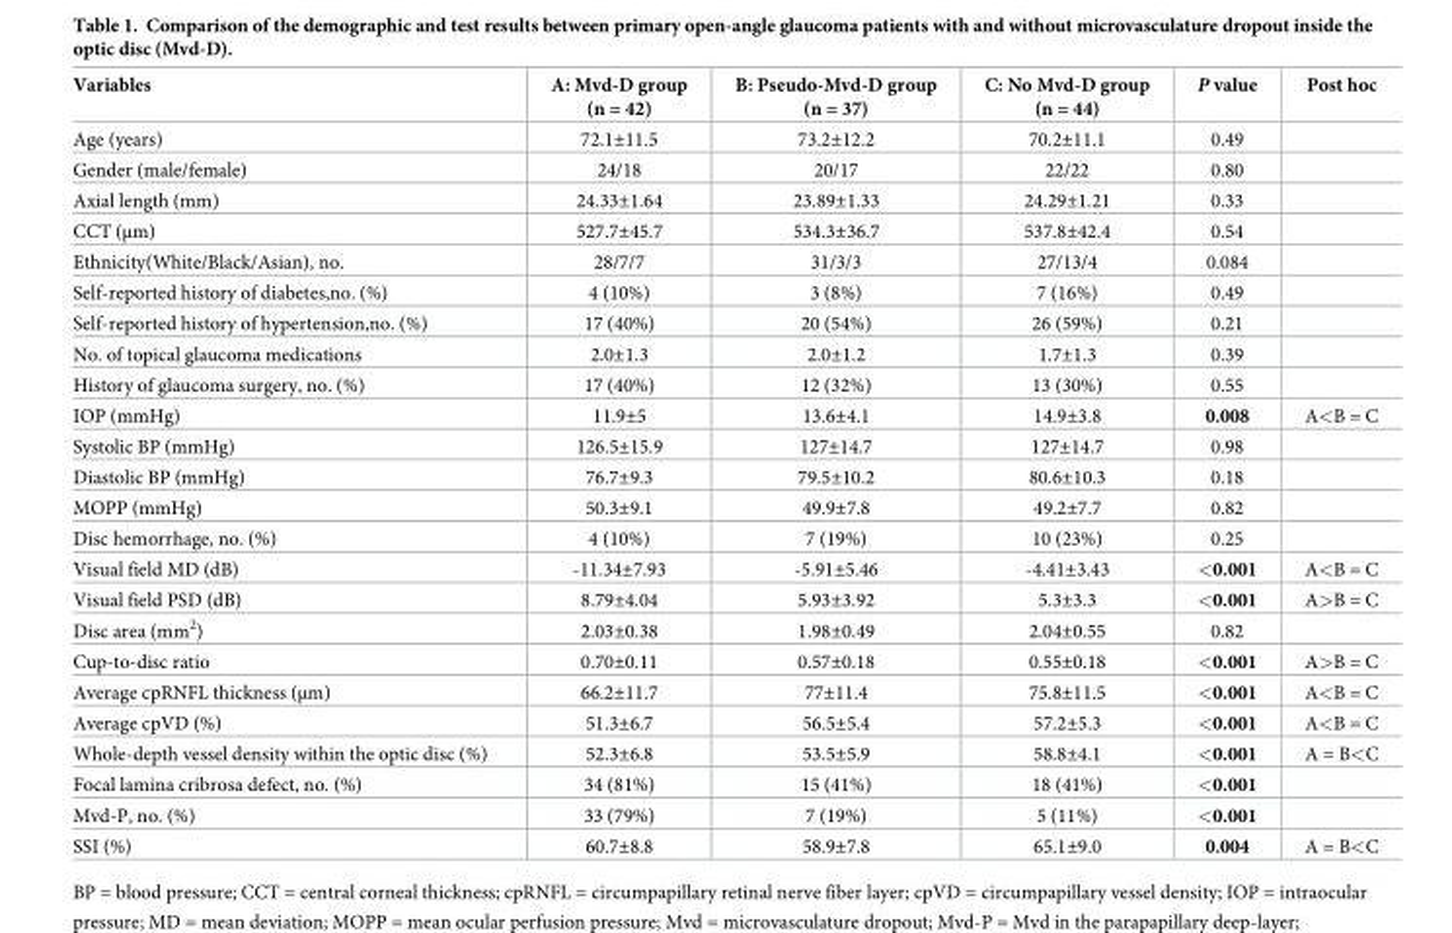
<table><thead><tr><td>Variables</td><td>A: Mvd-D group (n = 42)</td><td>B: Pseudo-Mvd-D group (n = 37)</td><td>C: No Mvd-D group (n = 44)</td><td>P value</td><td>Post hoc</td></tr></thead><tbody><tr><td>Age (years)</td><td>72.1±11.5</td><td>73.2±12.2</td><td>70.2±11.1</td><td>0.49</td><td></td></tr><tr><td>Gender (male/female)</td><td>24/18</td><td>20/17</td><td>22/22</td><td>0.80</td><td></td></tr><tr><td>Axial length (mm)</td><td>24.33±1.64</td><td>23.89±1.33</td><td>24.29±1.21</td><td>0.33</td><td></td></tr><tr><td>CCT (μm)</td><td>527.7±45.7</td><td>534.3±36.7</td><td>537.8±42.4</td><td>0.54</td><td></td></tr><tr><td>Ethnicity(White/Black/Asian), no.</td><td>28/7/7</td><td>31/3/3</td><td>27/13/4</td><td>0.084</td><td></td></tr><tr><td>Self-reported history of diabetes,no. (%)</td><td>4 (10%)</td><td>3 (8%)</td><td>7 (16%)</td><td>0.49</td><td></td></tr><tr><td>Self-reported history of hypertension,no. (%)</td><td>17 (40%)</td><td>20 (54%)</td><td>26 (59%)</td><td>0.21</td><td></td></tr><tr><td>No. of topical glaucoma medications</td><td>2.0±1.3</td><td>2.0±1.2</td><td>1.7±1.3</td><td>0.39</td><td></td></tr><tr><td>History of glaucoma surgery, no. (%)</td><td>17 (40%)</td><td>12 (32%)</td><td>13 (30%)</td><td>0.55</td><td></td></tr><tr><td>IOP (mmHg)</td><td>11.9±5</td><td>13.6±4.1</td><td>14.9±3.8</td><td>0.008</td><td>A&lt;B = C</td></tr><tr><td>Systolic BP (mmHg)</td><td>126.5±15.9</td><td>127±14.7</td><td>127±14.7</td><td>0.98</td><td></td></tr><tr><td>Diastolic BP (mmHg)</td><td>76.7±9.3</td><td>79.5±10.2</td><td>80.6±10.3</td><td>0.18</td><td></td></tr><tr><td>MOPP (mmHg)</td><td>50.3±9.1</td><td>49.9±7.8</td><td>49.2±7.7</td><td>0.82</td><td></td></tr><tr><td>Disc hemorrhage, no. (%)</td><td>4 (10%)</td><td>7 (19%)</td><td>10 (23%)</td><td>0.25</td><td></td></tr><tr><td>Visual field MD (dB)</td><td>-11.34±7.93</td><td>-5.91±5.46</td><td>-4.41±3.43</td><td>&lt;0.001</td><td>A&lt;B = C</td></tr><tr><td>Visual field PSD (dB)</td><td>8.79±4.04</td><td>5.93±3.92</td><td>5.3±3.3</td><td>&lt;0.001</td><td>A&gt;B = C</td></tr><tr><td>Disc area (mm<sup>2</sup>)</td><td>2.03±0.38</td><td>1.98±0.49</td><td>2.04±0.55</td><td>0.82</td><td></td></tr><tr><td>Cup-to-disc ratio</td><td>0.70±0.11</td><td>0.57±0.18</td><td>0.55±0.18</td><td>&lt;0.001</td><td>A&gt;B = C</td></tr><tr><td>Average cpRNFL thickness (μm)</td><td>66.2±11.7</td><td>77±11.4</td><td>75.8±11.5</td><td>&lt;0.001</td><td>A&lt;B = C</td></tr><tr><td>Average cpVD (%)</td><td>51.3±6.7</td><td>56.5±5.4</td><td>57.2±5.3</td><td>&lt;0.001</td><td>A&lt;B = C</td></tr><tr><td>Whole-depth vessel density within the optic disc (%)</td><td>52.3±6.8</td><td>53.5±5.9</td><td>58.8±4.1</td><td>&lt;0.001</td><td>A = B&lt;C</td></tr><tr><td>Focal lamina cribrosa defect, no. (%)</td><td>34 (81%)</td><td>15 (41%)</td><td>18 (41%)</td><td>&lt;0.001</td><td></td></tr><tr><td>Mvd-P, no. (%)</td><td>33 (79%)</td><td>7 (19%)</td><td>5 (11%)</td><td>&lt;0.001</td><td></td></tr><tr><td>SSI (%)</td><td>60.7±8.8</td><td>58.9±7.8</td><td>65.1±9.0</td><td>0.004</td><td>A = B&lt;C</td></tr></tbody></table>